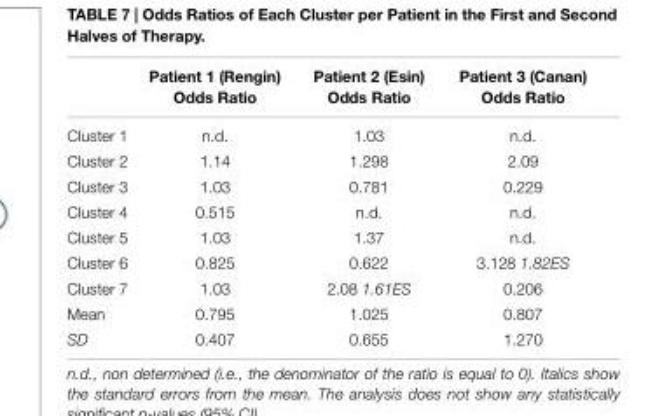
<table><thead><tr><td></td><td>Patient 1 (Rengin) Odds Ratio</td><td>Patient 2 (Esin) Odds Ratio</td><td>Patient 3 (Canan) Odds Ratio</td></tr></thead><tbody><tr><td>Cluster 1</td><td>n.d.</td><td>1.03</td><td>n.d.</td></tr><tr><td>Cluster 2</td><td>1.14</td><td>1.298</td><td>2.09</td></tr><tr><td>Cluster 3</td><td>1.03</td><td>0.781</td><td>0.229</td></tr><tr><td>Cluster 4</td><td>0.515</td><td>n.d.</td><td>n.d.</td></tr><tr><td>Cluster 5</td><td>1.03</td><td>1.37</td><td>n.d.</td></tr><tr><td>Cluster 6</td><td>0.825</td><td>0.622</td><td>3.128 1.82ES</td></tr><tr><td>Cluster 7</td><td>1.03</td><td>2.08 1.61ES</td><td>0.206</td></tr><tr><td>Mean</td><td>0.795</td><td>1.025</td><td>0.807</td></tr><tr><td>SD</td><td>0.407</td><td>0.655</td><td>1.270</td></tr></tbody></table>